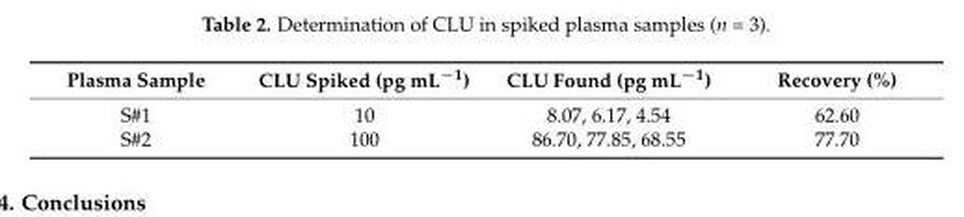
<table><thead><tr><td>Plasma Sample</td><td>CLU Spiked (pg mL<sup>−1</sup>)</td><td>CLU Found (pg mL<sup>−1</sup>)</td><td>Recovery (%)</td></tr></thead><tbody><tr><td>S#1</td><td>10</td><td>8.07, 6.17, 4.54</td><td>62.60</td></tr><tr><td>S#2</td><td>100</td><td>86.70, 77.85, 68.55</td><td>77.70</td></tr></tbody></table>